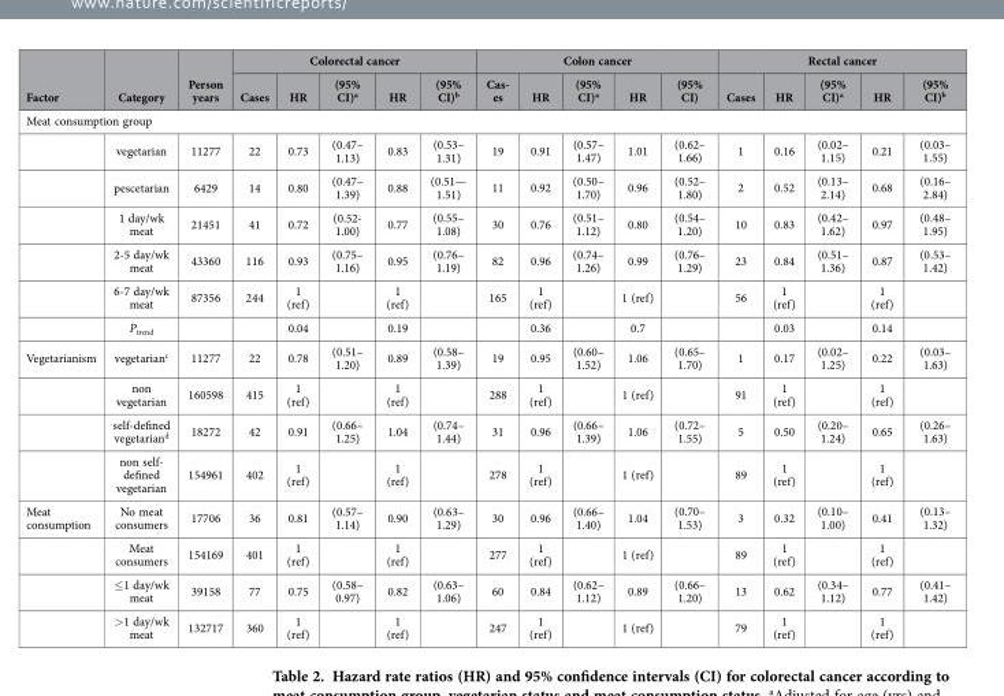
<table><thead><tr><td rowspan="2">Factor</td><td rowspan="2">Category</td><td rowspan="2">Person years</td><td colspan="5">Colorectal cancer</td><td colspan="5">Colon cancer</td><td colspan="5">Rectal cancer</td></tr><tr><td>Cases</td><td>HR</td><td>(95% CI)<sup>a</sup></td><td>HR</td><td>(95% CI)<sup>b</sup></td><td>Cas- es</td><td>HR</td><td>(95% CI)<sup>a</sup></td><td>HR</td><td>(95% CI)</td><td>Cases</td><td>HR</td><td>(95% CI)<sup>a</sup></td><td>HR</td><td>(95% CI)<sup>b</sup></td></tr></thead><tbody><tr><td colspan="18">Meat consumption group</td></tr><tr><td></td><td>vegetarian</td><td>11277</td><td>22</td><td>0.73</td><td>(0.47– 1.13)</td><td>0.83</td><td>(0.53– 1.31)</td><td>19</td><td>0.91</td><td>(0.57– 1.47)</td><td>1.01</td><td>(0.62– 1.66)</td><td>1</td><td>0.16</td><td>(0.02– 1.15)</td><td>0.21</td><td>(0.03– 1.55)</td></tr><tr><td></td><td>pescetarian</td><td>6429</td><td>14</td><td>0.80</td><td>(0.47– 1.39)</td><td>0.88</td><td>(0.51— 1.51)</td><td>11</td><td>0.92</td><td>(0.50– 1.70)</td><td>0.96</td><td>(0.52– 1.80)</td><td>2</td><td>0.52</td><td>(0.13– 2.14)</td><td>0.68</td><td>(0.16– 2.84)</td></tr><tr><td></td><td>1 day/wk meat</td><td>21451</td><td>41</td><td>0.72</td><td>(0.52- 1.00)</td><td>0.77</td><td>(0.55– 1.08)</td><td>30</td><td>0.76</td><td>(0.51– 1.12)</td><td>0.80</td><td>(0.54– 1.20)</td><td>10</td><td>0.83</td><td>(0.42– 1.62)</td><td>0.97</td><td>(0.48– 1.95)</td></tr><tr><td></td><td>2-5 day/wk meat</td><td>43360</td><td>116</td><td>0.93</td><td>(0.75– 1.16)</td><td>0.95</td><td>(0.76– 1.19)</td><td>82</td><td>0.96</td><td>(0.74– 1.26)</td><td>0.99</td><td>(0.76– 1.29)</td><td>23</td><td>0.84</td><td>(0.51– 1.36)</td><td>0.87</td><td>(0.53– 1.42)</td></tr><tr><td></td><td>6-7 day/wk meat</td><td>87356</td><td>244</td><td>1 (ref)</td><td></td><td>1 (ref)</td><td></td><td>165</td><td>1 (ref)</td><td></td><td>1 (ref)</td><td></td><td>56</td><td>1 (ref)</td><td></td><td>1 (ref)</td><td></td></tr><tr><td></td><td>P<sub>trend</sub></td><td></td><td></td><td>0.04</td><td></td><td>0.19</td><td></td><td></td><td>0.36</td><td></td><td>0.7</td><td></td><td></td><td>0.03</td><td></td><td>0.14</td><td></td></tr><tr><td rowspan="4">Vegetarianism</td><td>vegetarian<sup>c</sup></td><td>11277</td><td>22</td><td>0.78</td><td>(0.51– 1.20)</td><td>0.89</td><td>(0.58– 1.39)</td><td>19</td><td>0.95</td><td>(0.60– 1.52)</td><td>1.06</td><td>(0.65– 1.70)</td><td>1</td><td>0.17</td><td>(0.02– 1.25)</td><td>0.22</td><td>(0.03– 1.63)</td></tr><tr><td>non vegetarian</td><td>160598</td><td>415</td><td>1 (ref)</td><td></td><td>1 (ref)</td><td></td><td>288</td><td>1 (ref)</td><td></td><td>1 (ref)</td><td></td><td>91</td><td>1 (ref)</td><td></td><td>1 (ref)</td><td></td></tr><tr><td>self-defined vegetarian<sup>d</sup></td><td>18272</td><td>42</td><td>0.91</td><td>(0.66– 1.25)</td><td>1.04</td><td>(0.74– 1.44)</td><td>31</td><td>0.96</td><td>(0.66– 1.39)</td><td>1.06</td><td>(0.72– 1.55)</td><td>5</td><td>0.50</td><td>(0.20– 1.24)</td><td>0.65</td><td>(0.26– 1.63)</td></tr><tr><td>non self- defined vegetarian</td><td>154961</td><td>402</td><td>1 (ref)</td><td></td><td>1 (ref)</td><td></td><td>278</td><td>1 (ref)</td><td></td><td>1 (ref)</td><td></td><td>89</td><td>1 (ref)</td><td></td><td>1 (ref)</td><td></td></tr><tr><td rowspan="4">Meat consumption</td><td>No meat consumers</td><td>17706</td><td>36</td><td>0.81</td><td>(0.57– 1.14)</td><td>0.90</td><td>(0.63– 1.29)</td><td>30</td><td>0.96</td><td>(0.66– 1.40)</td><td>1.04</td><td>(0.70– 1.53)</td><td>3</td><td>0.32</td><td>(0.10– 1.00)</td><td>0.41</td><td>(0.13– 1.32)</td></tr><tr><td>Meat consumers</td><td>154169</td><td>401</td><td>1 (ref)</td><td></td><td>1 (ref)</td><td></td><td>277</td><td>1 (ref)</td><td></td><td>1 (ref)</td><td></td><td>89</td><td>1 (ref)</td><td></td><td>1 (ref)</td><td></td></tr><tr><td>≤1 day/wk meat</td><td>39158</td><td>77</td><td>0.75</td><td>(0.58– 0.97)</td><td>0.82</td><td>(0.63– 1.06)</td><td>60</td><td>0.84</td><td>(0.62– 1.12)</td><td>0.89</td><td>(0.66– 1.20)</td><td>13</td><td>0.62</td><td>(0.34– 1.12)</td><td>0.77</td><td>(0.41– 1.42)</td></tr><tr><td>&gt;1 day/wk meat</td><td>132717</td><td>360</td><td>1 (ref)</td><td></td><td>1 (ref)</td><td></td><td>247</td><td>1 (ref)</td><td></td><td>1 (ref)</td><td></td><td>79</td><td>1 (ref)</td><td></td><td>1 (ref)</td><td></td></tr></tbody></table>